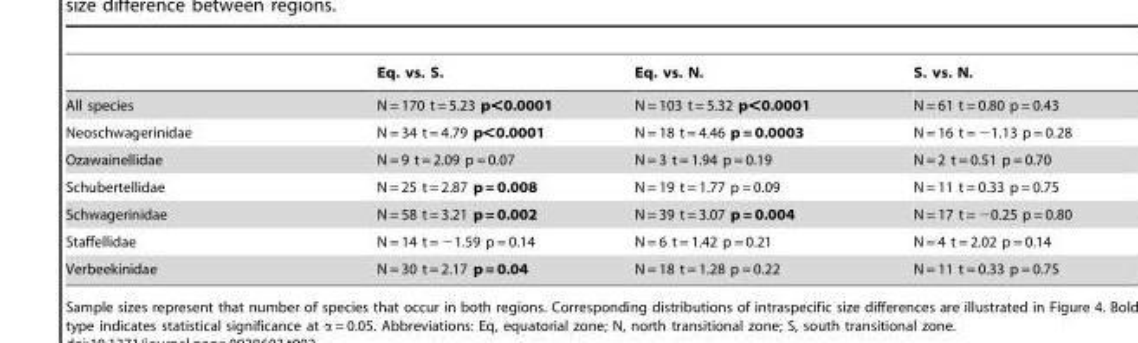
<table><thead><tr><td></td><td>Eq. vs. S.</td><td>Eq. vs. N.</td><td>S. vs. N.</td></tr></thead><tbody><tr><td>All species</td><td>N = 170 t = 5.23 p&lt;0.0001</td><td>N = 103 t = 5.32 p&lt;0.0001</td><td>N = 61 t = 0.80 p = 0.43</td></tr><tr><td>Neoschwagerinidae</td><td>N = 34 t = 4.79 p&lt;0.0001</td><td>N = 18 t = 4.46 p = 0.0003</td><td>N = 16 t = −1.13 p = 0.28</td></tr><tr><td>Ozawainellidae</td><td>N = 9 t = 2.09 p = 0.07</td><td>N = 3 t = 1.94 p = 0.19</td><td>N = 2 t = 0.51 p = 0.70</td></tr><tr><td>Schubertellidae</td><td>N = 25 t = 2.87 p = 0.008</td><td>N = 19 t = 1.77 p = 0.09</td><td>N = 11 t = 0.33 p = 0.75</td></tr><tr><td>Schwagerinidae</td><td>N = 58 t = 3.21 p = 0.002</td><td>N = 39 t = 3.07 p = 0.004</td><td>N = 17 t = −0.25 p = 0.80</td></tr><tr><td>Staffellidae</td><td>N = 14 t = −1.59 p = 0.14</td><td>N = 6 t = 1.42 p = 0.21</td><td>N = 4 t = 2.02 p = 0.14</td></tr><tr><td>Verbeekinidae</td><td>N = 30 t = 2.17 p = 0.04</td><td>N = 18 t = 1.28 p = 0.22</td><td>N = 11 t = 0.33 p = 0.75</td></tr></tbody></table>